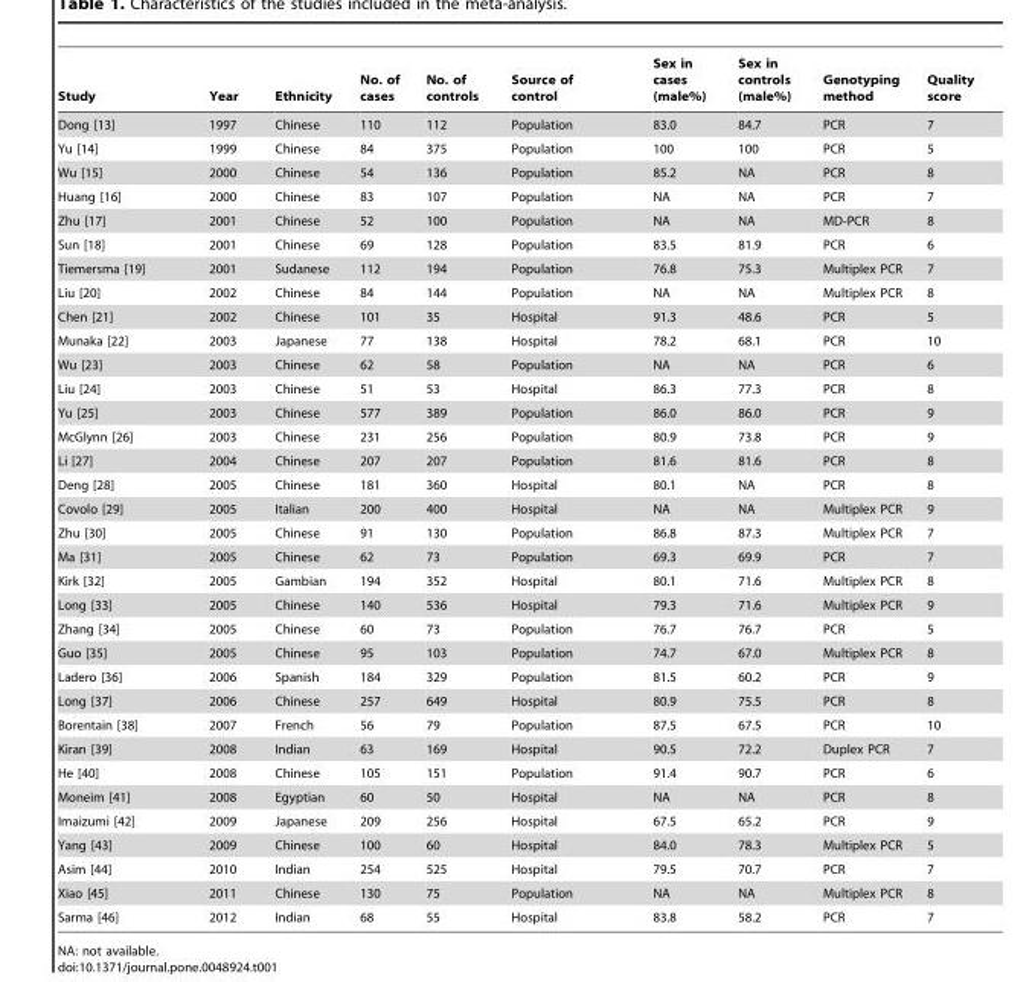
<table><thead><tr><td>Study</td><td>Year</td><td>Ethnicity</td><td>No. of cases</td><td>No. of controls</td><td>Source of control</td><td>Sex in cases (male%)</td><td>Sex in controls (male%)</td><td>Genotyping method</td><td>Quality score</td></tr></thead><tbody><tr><td>Dong [13]</td><td>1997</td><td>Chinese</td><td>110</td><td>112</td><td>Population</td><td>83.0</td><td>84.7</td><td>PCR</td><td>7</td></tr><tr><td>Yu [14]</td><td>1999</td><td>Chinese</td><td>84</td><td>375</td><td>Population</td><td>100</td><td>100</td><td>PCR</td><td>5</td></tr><tr><td>Wu [15]</td><td>2000</td><td>Chinese</td><td>54</td><td>136</td><td>Population</td><td>85.2</td><td>NA</td><td>PCR</td><td>8</td></tr><tr><td>Huang [16]</td><td>2000</td><td>Chinese</td><td>83</td><td>107</td><td>Population</td><td>NA</td><td>NA</td><td>PCR</td><td>7</td></tr><tr><td>Zhu [17]</td><td>2001</td><td>Chinese</td><td>52</td><td>100</td><td>Population</td><td>NA</td><td>NA</td><td>MD-PCR</td><td>8</td></tr><tr><td>Sun [18]</td><td>2001</td><td>Chinese</td><td>69</td><td>128</td><td>Population</td><td>83.5</td><td>81.9</td><td>PCR</td><td>6</td></tr><tr><td>Tiemersma [19]</td><td>2001</td><td>Sudanese</td><td>112</td><td>194</td><td>Population</td><td>76.8</td><td>75.3</td><td>Multiplex PCR</td><td>7</td></tr><tr><td>Liu [20]</td><td>2002</td><td>Chinese</td><td>84</td><td>144</td><td>Population</td><td>NA</td><td>NA</td><td>Multiplex PCR</td><td>8</td></tr><tr><td>Chen [21]</td><td>2002</td><td>Chinese</td><td>101</td><td>35</td><td>Hospital</td><td>91.3</td><td>48.6</td><td>PCR</td><td>5</td></tr><tr><td>Munaka [22]</td><td>2003</td><td>Japanese</td><td>77</td><td>138</td><td>Hospital</td><td>78.2</td><td>68.1</td><td>PCR</td><td>10</td></tr><tr><td>Wu [23]</td><td>2003</td><td>Chinese</td><td>62</td><td>58</td><td>Population</td><td>NA</td><td>NA</td><td>PCR</td><td>6</td></tr><tr><td>Liu [24]</td><td>2003</td><td>Chinese</td><td>51</td><td>53</td><td>Hospital</td><td>86.3</td><td>77.3</td><td>PCR</td><td>8</td></tr><tr><td>Yu [25]</td><td>2003</td><td>Chinese</td><td>577</td><td>389</td><td>Population</td><td>86.0</td><td>86.0</td><td>PCR</td><td>9</td></tr><tr><td>McGlynn [26]</td><td>2003</td><td>Chinese</td><td>231</td><td>256</td><td>Population</td><td>80.9</td><td>73.8</td><td>PCR</td><td>9</td></tr><tr><td>Li [27]</td><td>2004</td><td>Chinese</td><td>207</td><td>207</td><td>Population</td><td>81.6</td><td>81.6</td><td>PCR</td><td>8</td></tr><tr><td>Deng [28]</td><td>2005</td><td>Chinese</td><td>181</td><td>360</td><td>Hospital</td><td>80.1</td><td>NA</td><td>PCR</td><td>8</td></tr><tr><td>Covolo [29]</td><td>2005</td><td>Italian</td><td>200</td><td>400</td><td>Hospital</td><td>NA</td><td>NA</td><td>Multiplex PCR</td><td>9</td></tr><tr><td>Zhu [30]</td><td>2005</td><td>Chinese</td><td>91</td><td>130</td><td>Population</td><td>86.8</td><td>87.3</td><td>Multiplex PCR</td><td>7</td></tr><tr><td>Ma [31]</td><td>2005</td><td>Chinese</td><td>62</td><td>73</td><td>Population</td><td>69.3</td><td>69.9</td><td>PCR</td><td>7</td></tr><tr><td>Kirk [32]</td><td>2005</td><td>Gambian</td><td>194</td><td>352</td><td>Hospital</td><td>80.1</td><td>71.6</td><td>Multiplex PCR</td><td>8</td></tr><tr><td>Long [33]</td><td>2005</td><td>Chinese</td><td>140</td><td>536</td><td>Hospital</td><td>79.3</td><td>71.6</td><td>Multiplex PCR</td><td>9</td></tr><tr><td>Zhang [34]</td><td>2005</td><td>Chinese</td><td>60</td><td>73</td><td>Population</td><td>76.7</td><td>76.7</td><td>PCR</td><td>5</td></tr><tr><td>Guo [35]</td><td>2005</td><td>Chinese</td><td>95</td><td>103</td><td>Population</td><td>74.7</td><td>67.0</td><td>Multiplex PCR</td><td>8</td></tr><tr><td>Ladero [36]</td><td>2006</td><td>Spanish</td><td>184</td><td>329</td><td>Population</td><td>81.5</td><td>60.2</td><td>PCR</td><td>9</td></tr><tr><td>Long [37]</td><td>2006</td><td>Chinese</td><td>257</td><td>649</td><td>Hospital</td><td>80.9</td><td>75.5</td><td>PCR</td><td>8</td></tr><tr><td>Borentain [38]</td><td>2007</td><td>French</td><td>56</td><td>79</td><td>Population</td><td>87.5</td><td>67.5</td><td>PCR</td><td>10</td></tr><tr><td>Kiran [39]</td><td>2008</td><td>Indian</td><td>63</td><td>169</td><td>Hospital</td><td>90.5</td><td>72.2</td><td>Duplex PCR</td><td>7</td></tr><tr><td>He [40]</td><td>2008</td><td>Chinese</td><td>105</td><td>151</td><td>Population</td><td>91.4</td><td>90.7</td><td>PCR</td><td>6</td></tr><tr><td>Moneim [41]</td><td>2008</td><td>Egyptian</td><td>60</td><td>50</td><td>Hospital</td><td>NA</td><td>NA</td><td>PCR</td><td>8</td></tr><tr><td>Imaizumi [42]</td><td>2009</td><td>Japanese</td><td>209</td><td>256</td><td>Hospital</td><td>67.5</td><td>65.2</td><td>PCR</td><td>9</td></tr><tr><td>Yang [43]</td><td>2009</td><td>Chinese</td><td>100</td><td>60</td><td>Hospital</td><td>84.0</td><td>78.3</td><td>Multiplex PCR</td><td>5</td></tr><tr><td>Asim [44]</td><td>2010</td><td>Indian</td><td>254</td><td>525</td><td>Hospital</td><td>79.5</td><td>70.7</td><td>PCR</td><td>7</td></tr><tr><td>Xiao [45]</td><td>2011</td><td>Chinese</td><td>130</td><td>75</td><td>Population</td><td>NA</td><td>NA</td><td>Multiplex PCR</td><td>8</td></tr><tr><td>Sarma [46]</td><td>2012</td><td>Indian</td><td>68</td><td>55</td><td>Hospital</td><td>83.8</td><td>58.2</td><td>PCR</td><td>7</td></tr></tbody></table>